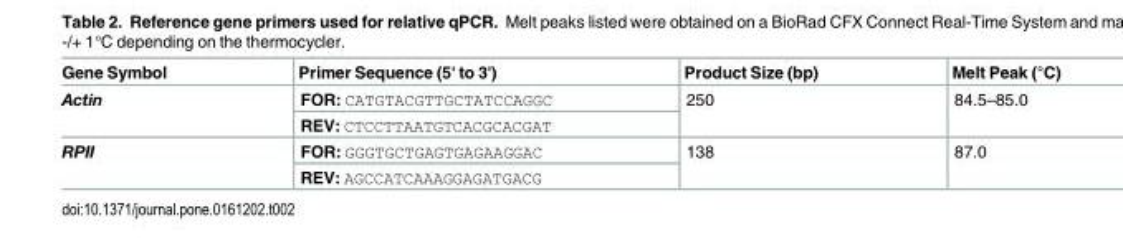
<table><thead><tr><td>Gene Symbol</td><td>Primer Sequence (5&#x27; to 3&#x27;)</td><td>Product Size (bp)</td><td>Melt Peak (°C)</td></tr></thead><tbody><tr><td rowspan="2">Actin</td><td>FOR: CATGTACGTTGCTATCCAGGC</td><td rowspan="2">250</td><td rowspan="2">84.5–85.0</td></tr><tr><td>REV: CTCCTTAATGTCACGCACGAT</td></tr><tr><td rowspan="2">RPII</td><td>FOR: GGGTGCTGAGTGAGAAGGAC</td><td rowspan="2">138</td><td rowspan="2">87.0</td></tr><tr><td>REV: AGCCATCAAAGGAGATGACG</td></tr></tbody></table>